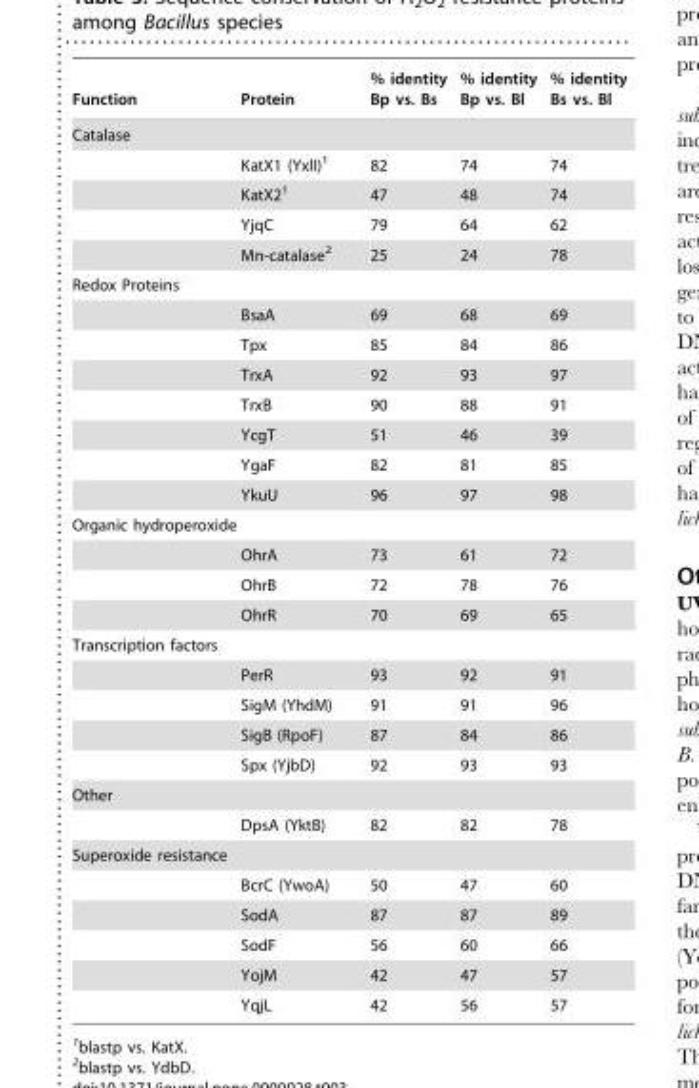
<table><thead><tr><td>Function</td><td>Protein</td><td>% identity Bp vs. Bs</td><td>% identity Bp vs. Bl</td><td>% identity Bs vs. Bl</td></tr></thead><tbody><tr><td colspan="5">Catalase</td></tr><tr><td></td><td>KatX1 (YxlI)<sup>1</sup></td><td>82</td><td>74</td><td>74</td></tr><tr><td></td><td>KatX2<sup>1</sup></td><td>47</td><td>48</td><td>74</td></tr><tr><td></td><td>YjqC</td><td>79</td><td>64</td><td>62</td></tr><tr><td></td><td>Mn-catalase<sup>2</sup></td><td>25</td><td>24</td><td>78</td></tr><tr><td colspan="5">Redox Proteins</td></tr><tr><td></td><td>BsaA</td><td>69</td><td>68</td><td>69</td></tr><tr><td></td><td>Tpx</td><td>85</td><td>84</td><td>86</td></tr><tr><td></td><td>TrxA</td><td>92</td><td>93</td><td>97</td></tr><tr><td></td><td>TrxB</td><td>90</td><td>88</td><td>91</td></tr><tr><td></td><td>YcgT</td><td>51</td><td>46</td><td>39</td></tr><tr><td></td><td>YgaF</td><td>82</td><td>81</td><td>85</td></tr><tr><td></td><td>YkuU</td><td>96</td><td>97</td><td>98</td></tr><tr><td colspan="5">Organic hydroperoxide</td></tr><tr><td></td><td>OhrA</td><td>73</td><td>61</td><td>72</td></tr><tr><td></td><td>OhrB</td><td>72</td><td>78</td><td>76</td></tr><tr><td></td><td>OhrR</td><td>70</td><td>69</td><td>65</td></tr><tr><td colspan="5">Transcription factors</td></tr><tr><td></td><td>PerR</td><td>93</td><td>92</td><td>91</td></tr><tr><td></td><td>SigM (YhdM)</td><td>91</td><td>91</td><td>96</td></tr><tr><td></td><td>SigB (RpoF)</td><td>87</td><td>84</td><td>86</td></tr><tr><td></td><td>Spx (YjbD)</td><td>92</td><td>93</td><td>93</td></tr><tr><td colspan="5">Other</td></tr><tr><td></td><td>DpsA (YktB)</td><td>82</td><td>82</td><td>78</td></tr><tr><td colspan="5">Superoxide resistance</td></tr><tr><td></td><td>BcrC (YwoA)</td><td>50</td><td>47</td><td>60</td></tr><tr><td></td><td>SodA</td><td>87</td><td>87</td><td>89</td></tr><tr><td></td><td>SodF</td><td>56</td><td>60</td><td>66</td></tr><tr><td></td><td>YojM</td><td>42</td><td>47</td><td>57</td></tr><tr><td></td><td>YqjL</td><td>42</td><td>56</td><td>57</td></tr></tbody></table>